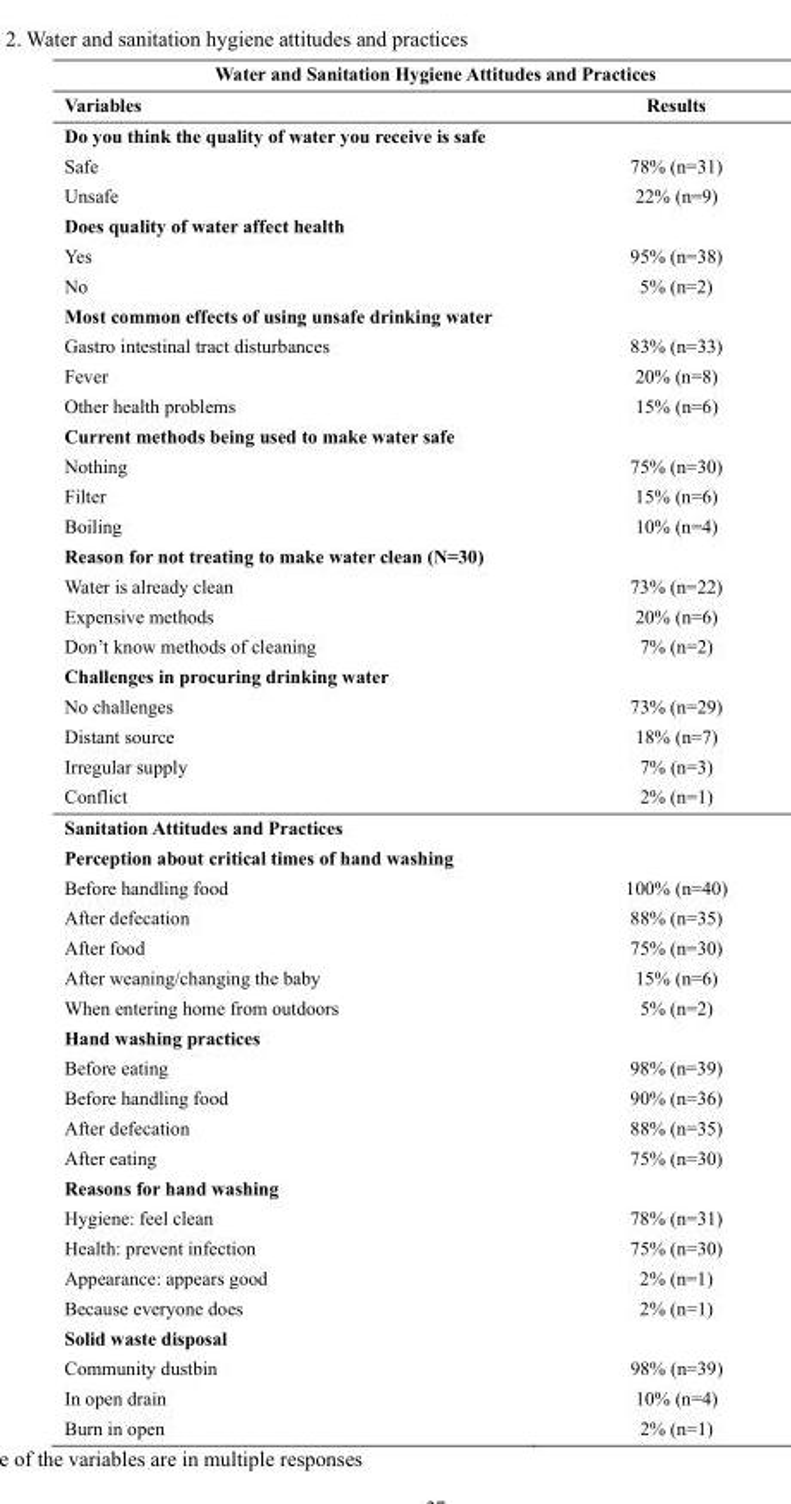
<table><thead><tr><td colspan="2">Water and Sanitation Hygiene Attitudes and Practices</td></tr><tr><td>Variables</td><td>Results</td></tr></thead><tbody><tr><td colspan="2">Do you think the quality of water you receive is safe</td></tr><tr><td>Safe</td><td>78% (n=31)</td></tr><tr><td>Unsafe</td><td>22% (n=9)</td></tr><tr><td colspan="2">Does quality of water affect health</td></tr><tr><td>Yes</td><td>95% (n=38)</td></tr><tr><td>No</td><td>5% (n=2)</td></tr><tr><td colspan="2">Most common effects of using unsafe drinking water</td></tr><tr><td>Gastro intestinal tract disturbances</td><td>83% (n=33)</td></tr><tr><td>Fever</td><td>20% (n=8)</td></tr><tr><td>Other health problems</td><td>15% (n=6)</td></tr><tr><td colspan="2">Current methods being used to make water safe</td></tr><tr><td>Nothing</td><td>75% (n=30)</td></tr><tr><td>Filter</td><td>15% (n=6)</td></tr><tr><td>Boiling</td><td>10% (n=4)</td></tr><tr><td colspan="2">Reason for not treating to make water clean (N=30)</td></tr><tr><td>Water is already clean</td><td>73% (n=22)</td></tr><tr><td>Expensive methods</td><td>20% (n=6)</td></tr><tr><td>Don’t know methods of cleaning</td><td>7% (n=2)</td></tr><tr><td colspan="2">Challenges in procuring drinking water</td></tr><tr><td>No challenges</td><td>73% (n=29)</td></tr><tr><td>Distant source</td><td>18% (n=7)</td></tr><tr><td>Irregular supply</td><td>7% (n=3)</td></tr><tr><td>Conflict</td><td>2% (n=1)</td></tr><tr><td colspan="2">Sanitation Attitudes and Practices</td></tr><tr><td colspan="2">Perception about critical times of hand washing</td></tr><tr><td>Before handling food</td><td>100% (n=40)</td></tr><tr><td>After defecation</td><td>88% (n=35)</td></tr><tr><td>After food</td><td>75% (n=30)</td></tr><tr><td>After weaning/changing the baby</td><td>15% (n=6)</td></tr><tr><td>When entering home from outdoors</td><td>5% (n=2)</td></tr><tr><td colspan="2">Hand washing practices</td></tr><tr><td>Before eating</td><td>98% (n=39)</td></tr><tr><td>Before handling food</td><td>90% (n=36)</td></tr><tr><td>After defecation</td><td>88% (n=35)</td></tr><tr><td>After eating</td><td>75% (n=30)</td></tr><tr><td colspan="2">Reasons for hand washing</td></tr><tr><td>Hygiene: feel clean</td><td>78% (n=31)</td></tr><tr><td>Health: prevent infection</td><td>75% (n=30)</td></tr><tr><td>Appearance: appears good</td><td>2% (n=1)</td></tr><tr><td>Because everyone does</td><td>2% (n=1)</td></tr><tr><td colspan="2">Solid waste disposal</td></tr><tr><td>Community dustbin</td><td>98% (n=39)</td></tr><tr><td>In open drain</td><td>10% (n=4)</td></tr><tr><td>Burn in open</td><td>2% (n=1)</td></tr></tbody></table>